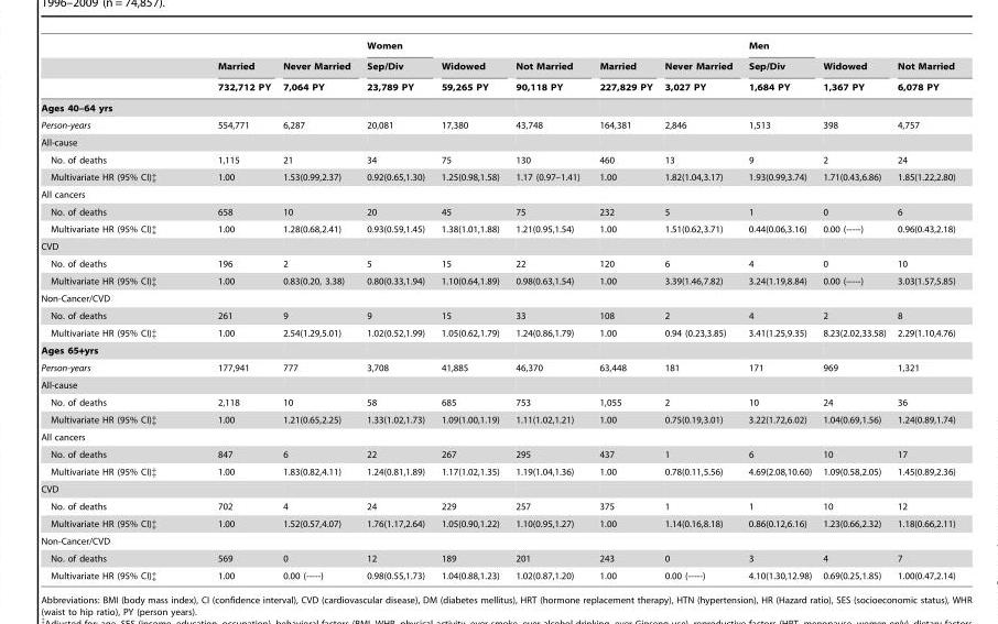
<table><thead><tr><td rowspan="3"></td><td rowspan="3">Married 732,712 PY</td><td rowspan="3">Never Married 7,064 PY</td><td rowspan="3">Women Sep/Div 23,789 PY</td><td rowspan="3">Widowed 59,265 PY</td><td rowspan="3">Not Married 90,118 PY</td><td rowspan="3">Married 227,829 PY</td><td rowspan="3">Never Married 3,027 PY</td><td rowspan="3">Men Sep/Div 1,684 PY</td><td rowspan="3">Widowed 1,367 PY</td><td rowspan="3">Not Married 6,078 PY</td></tr><tr></tr><tr></tr></thead><tbody><tr><td colspan="11">Ages 40–64 yrs</td></tr><tr><td>Person-years</td><td>554,771</td><td>6,287</td><td>20,081</td><td>17,380</td><td>43,748</td><td>164,381</td><td>2,846</td><td>1,513</td><td>398</td><td>4,757</td></tr><tr><td colspan="11">All-cause</td></tr><tr><td>No. of deaths</td><td>1,115</td><td>21</td><td>34</td><td>75</td><td>130</td><td>460</td><td>13</td><td>9</td><td>2</td><td>24</td></tr><tr><td>Multivariate HR (95% CI)‡</td><td>1.00</td><td>1.53(0.99,2.37)</td><td>0.92(0.65,1.30)</td><td>1.25(0.98,1.58)</td><td>1.17 (0.97–1.41)</td><td>1.00</td><td>1.82(1.04,3.17)</td><td>1.93(0.99,3.74)</td><td>1.71(0.43,6.86)</td><td>1.85(1.22,2.80)</td></tr><tr><td colspan="11">All cancers</td></tr><tr><td>No. of deaths</td><td>658</td><td>10</td><td>20</td><td>45</td><td>75</td><td>232</td><td>5</td><td>1</td><td>0</td><td>6</td></tr><tr><td>Multivariate HR (95% CI)‡</td><td>1.00</td><td>1.28(0.68,2.41)</td><td>0.93(0.59,1.45)</td><td>1.38(1.01,1.88)</td><td>1.21(0.95,1.54)</td><td>1.00</td><td>1.51(0.62,3.71)</td><td>0.44(0.06,3.16)</td><td>0.00 (-----)</td><td>0.96(0.43,2.18)</td></tr><tr><td colspan="11">CVD</td></tr><tr><td>No. of deaths</td><td>196</td><td>2</td><td>5</td><td>15</td><td>22</td><td>120</td><td>6</td><td>4</td><td>0</td><td>10</td></tr><tr><td>Multivariate HR (95% CI)‡</td><td>1.00</td><td>0.83(0.20, 3.38)</td><td>0.80(0.33,1.94)</td><td>1.10(0.64,1.89)</td><td>0.98(0.63,1.54)</td><td>1.00</td><td>3.39(1.46,7.82)</td><td>3.24(1.19,8.84)</td><td>0.00 (-----)</td><td>3.03(1.57,5.85)</td></tr><tr><td colspan="11">Non-Cancer/CVD</td></tr><tr><td>No. of deaths</td><td>261</td><td>9</td><td>9</td><td>15</td><td>33</td><td>108</td><td>2</td><td>4</td><td>2</td><td>8</td></tr><tr><td>Multivariate HR (95% CI)‡</td><td>1.00</td><td>2.54(1.29,5.01)</td><td>1.02(0.52,1.99)</td><td>1.05(0.62,1.79)</td><td>1.24(0.86,1.79)</td><td>1.00</td><td>0.94 (0.23,3.85)</td><td>3.41(1.25,9.35)</td><td>8.23(2.02,33.58)</td><td>2.29(1.10,4.76)</td></tr><tr><td colspan="11">Ages 65+yrs</td></tr><tr><td>Person-years</td><td>177,941</td><td>777</td><td>3,708</td><td>41,885</td><td>46,370</td><td>63,448</td><td>181</td><td>171</td><td>969</td><td>1,321</td></tr><tr><td colspan="11">All-cause</td></tr><tr><td>No. of deaths</td><td>2,118</td><td>10</td><td>58</td><td>685</td><td>753</td><td>1,055</td><td>2</td><td>10</td><td>24</td><td>36</td></tr><tr><td>Multivariate HR (95% CI)‡</td><td>1.00</td><td>1.21(0.65,2.25)</td><td>1.33(1.02,1.73)</td><td>1.09(1.00,1.19)</td><td>1.11(1.02,1.21)</td><td>1.00</td><td>0.75(0.19,3.01)</td><td>3.22(1.72,6.02)</td><td>1.04(0.69,1.56)</td><td>1.24(0.89,1.74)</td></tr><tr><td colspan="11">All cancers</td></tr><tr><td>No. of deaths</td><td>847</td><td>6</td><td>22</td><td>267</td><td>295</td><td>437</td><td>1</td><td>6</td><td>10</td><td>17</td></tr><tr><td>Multivariate HR (95% CI)‡</td><td>1.00</td><td>1.83(0.82,4.11)</td><td>1.24(0.81,1.89)</td><td>1.17(1.02,1.35)</td><td>1.19(1.04,1.36)</td><td>1.00</td><td>0.78(0.11,5.56)</td><td>4.69(2.08,10.60)</td><td>1.09(0.58,2.05)</td><td>1.45(0.89,2.36)</td></tr><tr><td colspan="11">CVD</td></tr><tr><td>No. of deaths</td><td>702</td><td>4</td><td>24</td><td>229</td><td>257</td><td>375</td><td>1</td><td>1</td><td>10</td><td>12</td></tr><tr><td>Multivariate HR (95% CI)‡</td><td>1.00</td><td>1.52(0.57,4.07)</td><td>1.76(1.17,2.64)</td><td>1.05(0.90,1.22)</td><td>1.10(0.95,1.27)</td><td>1.00</td><td>1.14(0.16,8.18)</td><td>0.86(0.12,6.16)</td><td>1.23(0.66,2.32)</td><td>1.18(0.66,2.11)</td></tr><tr><td colspan="11">Non-Cancer/CVD</td></tr><tr><td>No. of deaths</td><td>569</td><td>0</td><td>12</td><td>189</td><td>201</td><td>243</td><td>0</td><td>3</td><td>4</td><td>7</td></tr><tr><td>Multivariate HR (95% CI)‡</td><td>1.00</td><td>0.00 (-----)</td><td>0.98(0.55,1.73)</td><td>1.04(0.88,1.23)</td><td>1.02(0.87,1.20)</td><td>1.00</td><td>0.00 (-----)</td><td>4.10(1.30,12.98)</td><td>0.69(0.25,1.85)</td><td>1.00(0.47,2.14)</td></tr></tbody></table>